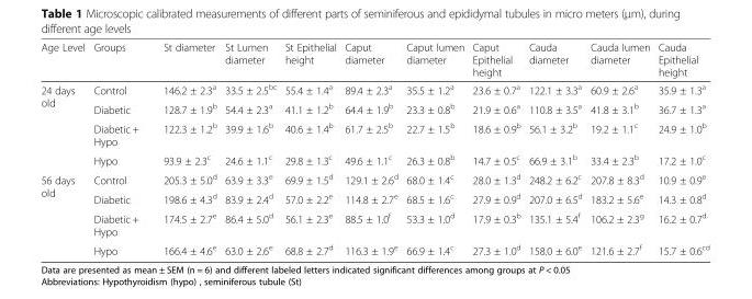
<table><thead><tr><td>Age Level</td><td>Groups</td><td>St diameter</td><td>St Lumen diameter</td><td>St Epithelial height</td><td>Caput diameter</td><td>Caput lumen diameter</td><td>Caput Epithelial height</td><td>Cauda diameter</td><td>Cauda lumen diameter</td><td>Cauda Epithelial height</td></tr></thead><tbody><tr><td rowspan="4">24 days old</td><td>Control</td><td>146.2 ± 2.3<sup>a</sup></td><td>33.5 ± 2.5<sup>bc</sup></td><td>55.4 ± 1.4<sup>a</sup></td><td>89.4 ± 2.3<sup>a</sup></td><td>35.5 ± 1.2<sup>a</sup></td><td>23.6 ± 0.7<sup>a</sup></td><td>122.1 ± 3.3<sup>a</sup></td><td>60.9 ± 2.6<sup>a</sup></td><td>35.9 ± 1.3<sup>a</sup></td></tr><tr><td>Diabetic</td><td>128.7 ± 1.9<sup>b</sup></td><td>54.4 ± 2.3<sup>a</sup></td><td>41.1 ± 1.2<sup>b</sup></td><td>64.4 ± 1.9<sup>b</sup></td><td>23.3 ± 0.8<sup>b</sup></td><td>21.9 ± 0.6<sup>a</sup></td><td>110.8 ± 3.5<sup>a</sup></td><td>41.8 ± 3.1<sup>b</sup></td><td>36.7 ± 1.3<sup>a</sup></td></tr><tr><td>Diabetic + Hypo</td><td>122.3 ± 1.2<sup>b</sup></td><td>39.9 ± 1.6<sup>b</sup></td><td>40.6 ± 1.4<sup>b</sup></td><td>61.7 ± 2.5<sup>b</sup></td><td>22.7 ± 1.5<sup>b</sup></td><td>18.6 ± 0.9<sup>b</sup></td><td>56.1 ± 3.2<sup>b</sup></td><td>19.2 ± 1.1<sup>c</sup></td><td>24.9 ± 1.0<sup>b</sup></td></tr><tr><td>Hypo</td><td>93.9 ± 2.3<sup>c</sup></td><td>24.6 ± 1.1<sup>c</sup></td><td>29.8 ± 1.3<sup>c</sup></td><td>49.6 ± 1.1<sup>c</sup></td><td>26.3 ± 0.8<sup>b</sup></td><td>14.7 ± 0.5<sup>c</sup></td><td>66.9 ± 3.1<sup>b</sup></td><td>33.4 ± 2.3<sup>b</sup></td><td>17.2 ± 1.0<sup>c</sup></td></tr><tr><td rowspan="4">56 days old</td><td>Control</td><td>205.3 ± 5.0<sup>d</sup></td><td>63.9 ± 3.3<sup>e</sup></td><td>69.9 ± 1.5<sup>d</sup></td><td>129.1 ± 2.6<sup>d</sup></td><td>68.0 ± 1.4<sup>c</sup></td><td>28.0 ± 1.3<sup>d</sup></td><td>248.2 ± 6.2<sup>c</sup></td><td>207.8 ± 8.3<sup>d</sup></td><td>10.9 ± 0.9<sup>e</sup></td></tr><tr><td>Diabetic</td><td>198.6 ± 4.3<sup>d</sup></td><td>83.9 ± 2.4<sup>d</sup></td><td>57.0 ± 2.2<sup>e</sup></td><td>114.8 ± 2.7<sup>e</sup></td><td>68.5 ± 1.6<sup>c</sup></td><td>27.9 ± 0.9<sup>d</sup></td><td>207.0 ± 6.5<sup>d</sup></td><td>183.2 ± 5.6<sup>e</sup></td><td>14.3 ± 0.8<sup>d</sup></td></tr><tr><td>Diabetic + Hypo</td><td>174.5 ± 2.7<sup>e</sup></td><td>86.4 ± 5.0<sup>d</sup></td><td>56.1 ± 2.3<sup>e</sup></td><td>88.5 ± 1.0<sup>f</sup></td><td>53.3 ± 1.0<sup>d</sup></td><td>17.9 ± 0.3<sup>b</sup></td><td>135.1 ± 5.4<sup>f</sup></td><td>106.2 ± 2.3<sup>g</sup></td><td>16.2 ± 0.7<sup>d</sup></td></tr><tr><td>Hypo</td><td>166.4 ± 4.6<sup>e</sup></td><td>63.0 ± 2.6<sup>e</sup></td><td>68.8 ± 2.7<sup>d</sup></td><td>116.3 ± 1.9<sup>e</sup></td><td>66.9 ± 1.4<sup>c</sup></td><td>27.3 ± 1.0<sup>d</sup></td><td>158.0 ± 6.0<sup>e</sup></td><td>121.6 ± 2.7<sup>f</sup></td><td>15.7 ± 0.6<sup>cd</sup></td></tr></tbody></table>